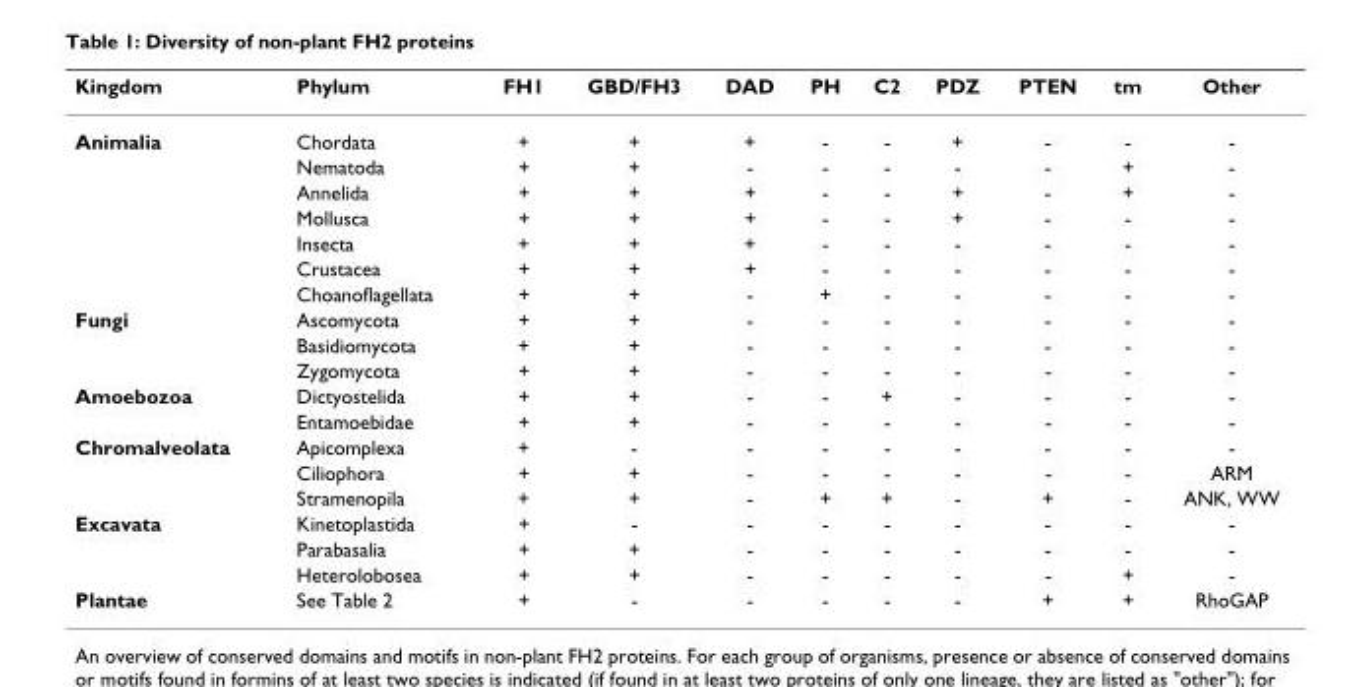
<table><thead><tr><td>Kingdom</td><td>Phylum</td><td>FH1</td><td>GBD/FH3</td><td>DAD</td><td>PH</td><td>C2</td><td>PDZ</td><td>PTEN</td><td>tm</td><td>Other</td></tr></thead><tbody><tr><td rowspan="7">Animalia</td><td>Chordata</td><td>+</td><td>+</td><td>+</td><td>-</td><td>-</td><td>+</td><td>-</td><td>-</td><td>-</td></tr><tr><td>Nematoda</td><td>+</td><td>+</td><td>-</td><td>-</td><td>-</td><td>-</td><td>-</td><td>+</td><td>-</td></tr><tr><td>Annelida</td><td>+</td><td>+</td><td>+</td><td>-</td><td>-</td><td>+</td><td>-</td><td>+</td><td>-</td></tr><tr><td>Mollusca</td><td>+</td><td>+</td><td>+</td><td>-</td><td>-</td><td>+</td><td>-</td><td>-</td><td>-</td></tr><tr><td>Insecta</td><td>+</td><td>+</td><td>+</td><td>-</td><td>-</td><td>-</td><td>-</td><td>-</td><td>-</td></tr><tr><td>Crustacea</td><td>+</td><td>+</td><td>+</td><td>-</td><td>-</td><td>-</td><td>-</td><td>-</td><td>-</td></tr><tr><td>Choanoflagellata</td><td>+</td><td>+</td><td>-</td><td>+</td><td>-</td><td>-</td><td>-</td><td>-</td><td>-</td></tr><tr><td rowspan="3">Fungi</td><td>Ascomycota</td><td>+</td><td>+</td><td>-</td><td>-</td><td>-</td><td>-</td><td>-</td><td>-</td><td>-</td></tr><tr><td>Basidiomycota</td><td>+</td><td>+</td><td>-</td><td>-</td><td>-</td><td>-</td><td>-</td><td>-</td><td>-</td></tr><tr><td>Zygomycota</td><td>+</td><td>+</td><td>-</td><td>-</td><td>-</td><td>-</td><td>-</td><td>-</td><td>-</td></tr><tr><td rowspan="2">Amoebozoa</td><td>Dictyostelida</td><td>+</td><td>+</td><td>-</td><td>-</td><td>+</td><td>-</td><td>-</td><td>-</td><td>-</td></tr><tr><td>Entamoebidae</td><td>+</td><td>+</td><td>-</td><td>-</td><td>-</td><td>-</td><td>-</td><td>-</td><td>-</td></tr><tr><td rowspan="3">Chromalveolata</td><td>Apicomplexa</td><td>+</td><td>-</td><td>-</td><td>-</td><td>-</td><td>-</td><td>-</td><td>-</td><td>-</td></tr><tr><td>Ciliophora</td><td>+</td><td>+</td><td>-</td><td>-</td><td>-</td><td>-</td><td>-</td><td>-</td><td>ARM</td></tr><tr><td>Stramenopila</td><td>+</td><td>+</td><td>-</td><td>+</td><td>+</td><td>-</td><td>+</td><td>-</td><td>ANK, WW</td></tr><tr><td rowspan="3">Excavata</td><td>Kinetoplastida</td><td>+</td><td>-</td><td>-</td><td>-</td><td>-</td><td>-</td><td>-</td><td>-</td><td>-</td></tr><tr><td>Parabasalia</td><td>+</td><td>+</td><td>-</td><td>-</td><td>-</td><td>-</td><td>-</td><td>-</td><td>-</td></tr><tr><td>Heterolobosea</td><td>+</td><td>+</td><td>-</td><td>-</td><td>-</td><td>-</td><td>-</td><td>+</td><td>-</td></tr><tr><td>Plantae</td><td>See Table 2</td><td>+</td><td>-</td><td>-</td><td>-</td><td>-</td><td>-</td><td>+</td><td>+</td><td>RhoGAP</td></tr></tbody></table>